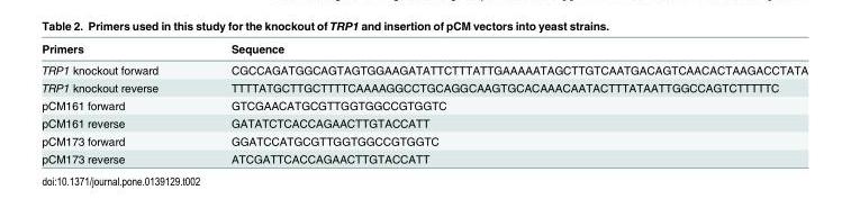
<table><thead><tr><td>Primers</td><td>Sequence</td></tr></thead><tbody><tr><td>TRP1 knockout forward</td><td>CGCCAGATGGCAGTAGTGGAAGATATTCTTTATTGAAAAATAGCTTGTCAATGACAGTCAACACTAAGACCTATA</td></tr><tr><td>TRP1 knockout reverse</td><td>TTTTATGCTTGCTTTTCAAAAGGCCTGCAGGCAAGTGCACAAACAATACTTTATAATTGGCCAGTCTTTTTC</td></tr><tr><td>pCM161 forward</td><td>GTCGAACATGCGTTGGTGGCCGTGGTC</td></tr><tr><td>pCM161 reverse</td><td>GATATCTCACCAGAACTTGTACCATT</td></tr><tr><td>pCM173 forward</td><td>GGATCCATGCGTTGGTGGCCGTGGTC</td></tr><tr><td>pCM173 reverse</td><td>ATCGATTCACCAGAACTTGTACCATT</td></tr></tbody></table>